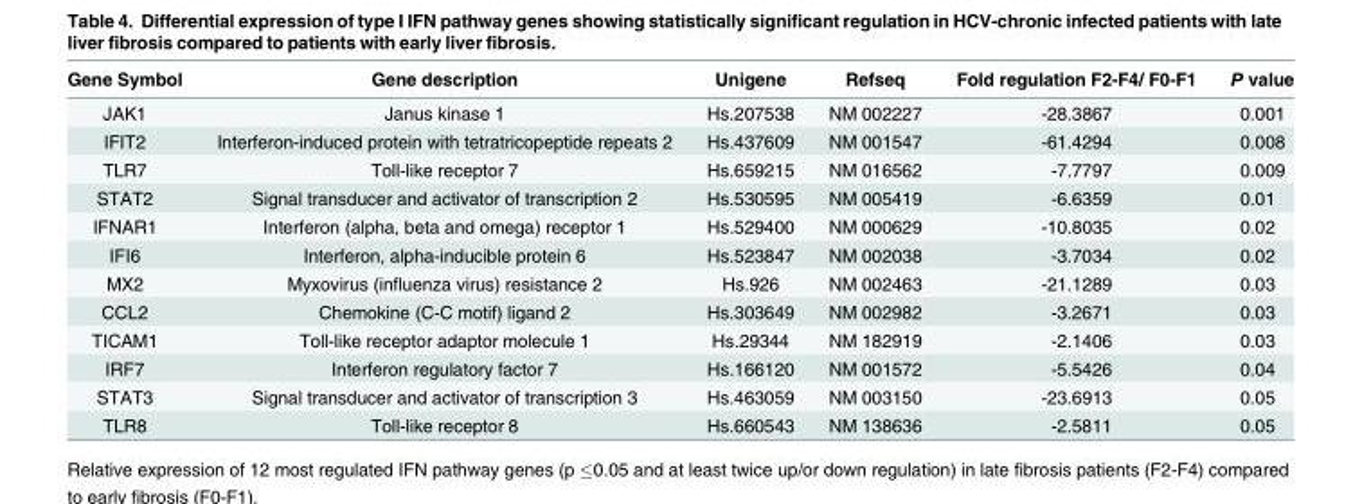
<table><thead><tr><td>Gene Symbol</td><td>Gene description</td><td>Unigene</td><td>Refseq</td><td>Fold regulation F2-F4/ F0-F1</td><td>P value</td></tr></thead><tbody><tr><td>JAK1</td><td>Janus kinase 1</td><td>Hs.207538</td><td>NM 002227</td><td>-28.3867</td><td>0.001</td></tr><tr><td>IFIT2</td><td>Interferon-induced protein with tetratricopeptide repeats 2</td><td>Hs.437609</td><td>NM 001547</td><td>-61.4294</td><td>0.008</td></tr><tr><td>TLR7</td><td>Toll-like receptor 7</td><td>Hs.659215</td><td>NM 016562</td><td>-7.7797</td><td>0.009</td></tr><tr><td>STAT2</td><td>Signal transducer and activator of transcription 2</td><td>Hs.530595</td><td>NM 005419</td><td>-6.6359</td><td>0.01</td></tr><tr><td>IFNAR1</td><td>Interferon (alpha, beta and omega) receptor 1</td><td>Hs.529400</td><td>NM 000629</td><td>-10.8035</td><td>0.02</td></tr><tr><td>IFI6</td><td>Interferon, alpha-inducible protein 6</td><td>Hs.523847</td><td>NM 002038</td><td>-3.7034</td><td>0.02</td></tr><tr><td>MX2</td><td>Myxovirus (influenza virus) resistance 2</td><td>Hs.926</td><td>NM 002463</td><td>-21.1289</td><td>0.03</td></tr><tr><td>CCL2</td><td>Chemokine (C-C motif) ligand 2</td><td>Hs.303649</td><td>NM 002982</td><td>-3.2671</td><td>0.03</td></tr><tr><td>TICAM1</td><td>Toll-like receptor adaptor molecule 1</td><td>Hs.29344</td><td>NM 182919</td><td>-2.1406</td><td>0.03</td></tr><tr><td>IRF7</td><td>Interferon regulatory factor 7</td><td>Hs.166120</td><td>NM 001572</td><td>-5.5426</td><td>0.04</td></tr><tr><td>STAT3</td><td>Signal transducer and activator of transcription 3</td><td>Hs.463059</td><td>NM 003150</td><td>-23.6913</td><td>0.05</td></tr><tr><td>TLR8</td><td>Toll-like receptor 8</td><td>Hs.660543</td><td>NM 138636</td><td>-2.5811</td><td>0.05</td></tr></tbody></table>